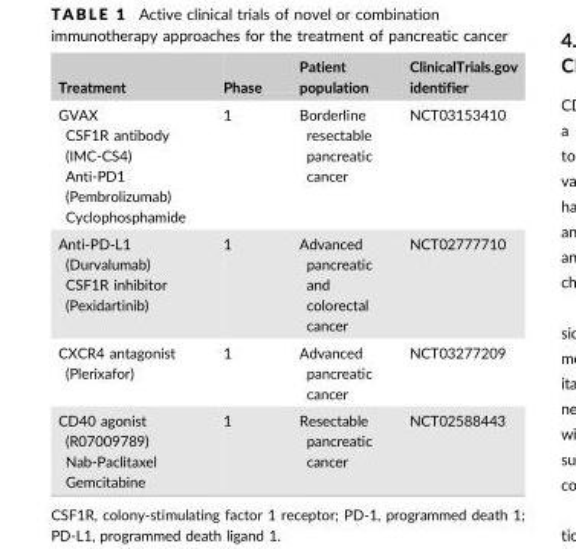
<table><thead><tr><td>Treatment</td><td>Phase</td><td>Patient population</td><td>ClinicalTrials.gov identifier</td></tr></thead><tbody><tr><td>GVAX CSF1R antibody (IMC-CS4) Anti-PD1 (Pembrolizumab) Cyclophosphamide</td><td>1</td><td>Borderline resectable pancreatic cancer</td><td>NCT03153410</td></tr><tr><td>Anti-PD-L1 (Durvalumab) CSF1R inhibitor (Pexidartinib)</td><td>1</td><td>Advanced pancreatic and colorectal cancer</td><td>NCT02777710</td></tr><tr><td>CXCR4 antagonist (Plerixafor)</td><td>1</td><td>Advanced pancreatic cancer</td><td>NCT03277209</td></tr><tr><td>CD40 agonist (R07009789) Nab-Paclitaxel Gemcitabine</td><td>1</td><td>Resectable pancreatic cancer</td><td>NCT02588443</td></tr></tbody></table>